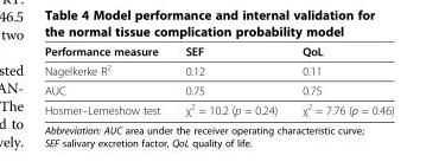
<table><thead><tr><td>Performance measure</td><td>SEF</td><td>QoL</td></tr></thead><tbody><tr><td>Nagelkerke R<sup>2</sup></td><td>0.12</td><td>0.11</td></tr><tr><td>AUC</td><td>0.75</td><td>0.75</td></tr><tr><td>Hosmer–Lemeshow test</td><td>χ<sup>2</sup> = 10.2 (p = 0.24)</td><td>χ<sup>2</sup> = 7.76 (p = 0.46)</td></tr></tbody></table>